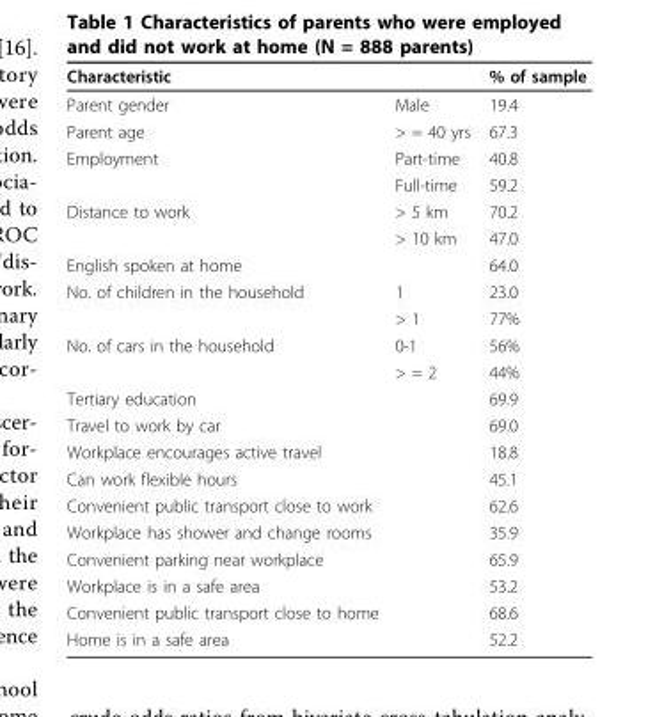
<table><thead><tr><td>Characteristic</td><td></td><td>% of sample</td></tr></thead><tbody><tr><td>Parent gender</td><td>Male</td><td>19.4</td></tr><tr><td>Parent age</td><td>&gt; = 40 yrs</td><td>67.3</td></tr><tr><td rowspan="2">Employment</td><td>Part-time</td><td>40.8</td></tr><tr><td>Full-time</td><td>59.2</td></tr><tr><td rowspan="2">Distance to work</td><td>&gt; 5 km</td><td>70.2</td></tr><tr><td>&gt; 10 km</td><td>47.0</td></tr><tr><td>English spoken at home</td><td></td><td>64.0</td></tr><tr><td rowspan="2">No. of children in the household</td><td>1</td><td>23.0</td></tr><tr><td>&gt; 1</td><td>77%</td></tr><tr><td rowspan="2">No. of cars in the household</td><td>0-1</td><td>56%</td></tr><tr><td>&gt; = 2</td><td>44%</td></tr><tr><td>Tertiary education</td><td></td><td>69.9</td></tr><tr><td>Travel to work by car</td><td></td><td>69.0</td></tr><tr><td>Workplace encourages active travel</td><td></td><td>18.8</td></tr><tr><td>Can work flexible hours</td><td></td><td>45.1</td></tr><tr><td>Convenient public transport close to work</td><td></td><td>62.6</td></tr><tr><td>Workplace has shower and change rooms</td><td></td><td>35.9</td></tr><tr><td>Convenient parking near workplace</td><td></td><td>65.9</td></tr><tr><td>Workplace is in a safe area</td><td></td><td>53.2</td></tr><tr><td>Convenient public transport close to home</td><td></td><td>68.6</td></tr><tr><td>Home is in a safe area</td><td></td><td>52.2</td></tr></tbody></table>